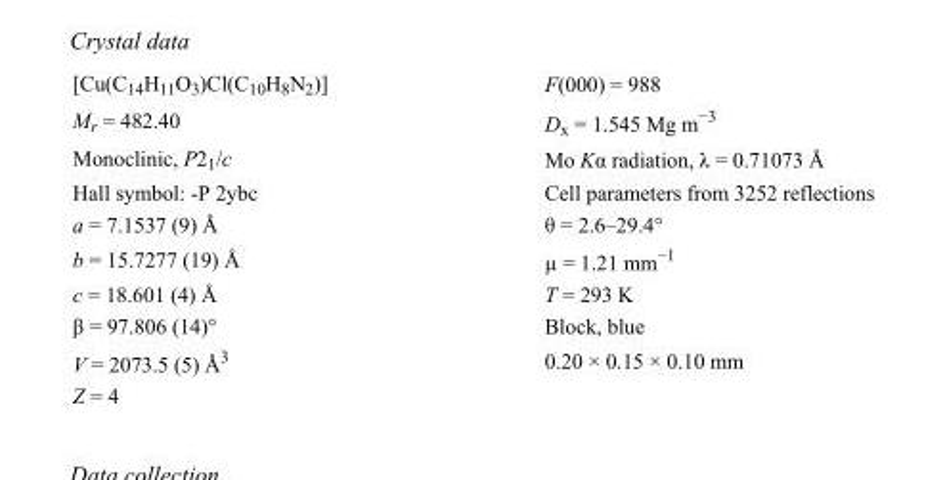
<table><tbody><tr><td>[Cu(C<sub>14</sub>H<sub>11</sub>O<sub>3</sub>)Cl(C<sub>10</sub>H<sub>8</sub>N<sub>2</sub>)]</td><td>F(000) = 988</td></tr><tr><td>M<sub>r</sub> = 482.40</td><td>D<sub>x</sub> = 1.545 Mg m<sup>−3</sup></td></tr><tr><td>Monoclinic, P2<sub>1</sub>/c</td><td>Mo Kα radiation, λ = 0.71073 Å</td></tr><tr><td>Hall symbol: -P 2ybc</td><td>Cell parameters from 3252 reflections</td></tr><tr><td>a = 7.1537 (9) Å</td><td>θ = 2.6–29.4°</td></tr><tr><td>b = 15.7277 (19) Å</td><td>µ = 1.21 mm<sup>−1</sup></td></tr><tr><td>c = 18.601 (4) Å</td><td>T = 293 K</td></tr><tr><td>β = 97.806 (14)°</td><td>Block, blue</td></tr><tr><td>V = 2073.5 (5) Å<sup>3</sup></td><td>0.20 × 0.15 × 0.10 mm</td></tr><tr><td>Z = 4</td><td></td></tr></tbody></table>